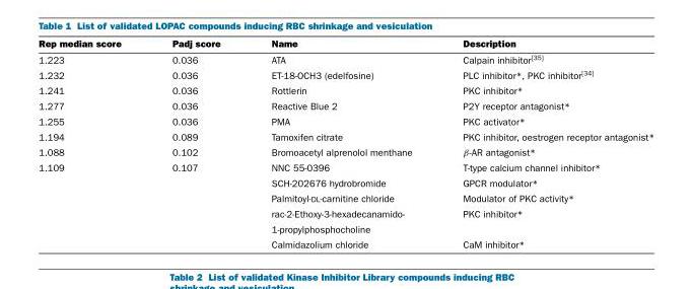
<table><thead><tr><td>Rep median score</td><td>Padj score</td><td>Name</td><td>Description</td></tr></thead><tbody><tr><td>1.223</td><td>0.036</td><td>ATA</td><td>Calpain inhibitor<sup>[35]</sup></td></tr><tr><td>1.232</td><td>0.036</td><td>ET-18-OCH3 (edelfosine)</td><td>PLC inhibitor*, PKC inhibitor<sup>[34]</sup></td></tr><tr><td>1.241</td><td>0.036</td><td>Rottlerin</td><td>PKC inhibitor*</td></tr><tr><td>1.277</td><td>0.036</td><td>Reactive Blue 2</td><td>P2Y receptor antagonist*</td></tr><tr><td>1.255</td><td>0.036</td><td>PMA</td><td>PKC activator*</td></tr><tr><td>1.194</td><td>0.089</td><td>Tamoxifen citrate</td><td>PKC inhibitor, oestrogen receptor antagonist*</td></tr><tr><td>1.088</td><td>0.102</td><td>Bromoacetyl alprenolol menthane</td><td>β-AR antagonist*</td></tr><tr><td rowspan="6">1.109</td><td>0.107</td><td>NNC 55-0396</td><td>T-type calcium channel inhibitor*</td></tr><tr><td></td><td>SCH-202676 hydrobromide</td><td>GPCR modulator*</td></tr><tr><td></td><td>Palmitoyl-DL-carnitine chloride</td><td>Modulator of PKC activity*</td></tr><tr><td></td><td>rac-2-Ethoxy-3-hexadecanamido-</td><td>PKC inhibitor*</td></tr><tr><td></td><td>1-propylphosphocholine</td><td></td></tr><tr><td></td><td>Calmidazolium chloride</td><td>CaM inhibitor*</td></tr></tbody></table>